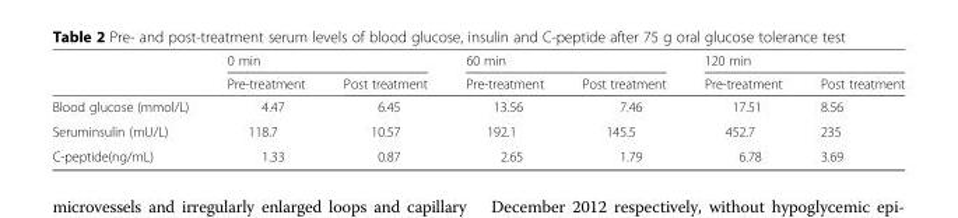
<table><thead><tr><td rowspan="2"></td><td colspan="2">0 min</td><td colspan="2">60 min</td><td colspan="2">120 min</td></tr><tr><td>Pre-treatment</td><td>Post treatment</td><td>Pre-treatment</td><td>Post treatment</td><td>Pre-treatment</td><td>Post treatment</td></tr></thead><tbody><tr><td>Blood glucose (mmol/L)</td><td>4.47</td><td>6.45</td><td>13.56</td><td>7.46</td><td>17.51</td><td>8.56</td></tr><tr><td>Seruminsulin (mU/L)</td><td>118.7</td><td>10.57</td><td>192.1</td><td>145.5</td><td>452.7</td><td>235</td></tr><tr><td>C-peptide(ng/mL)</td><td>1.33</td><td>0.87</td><td>2.65</td><td>1.79</td><td>6.78</td><td>3.69</td></tr></tbody></table>